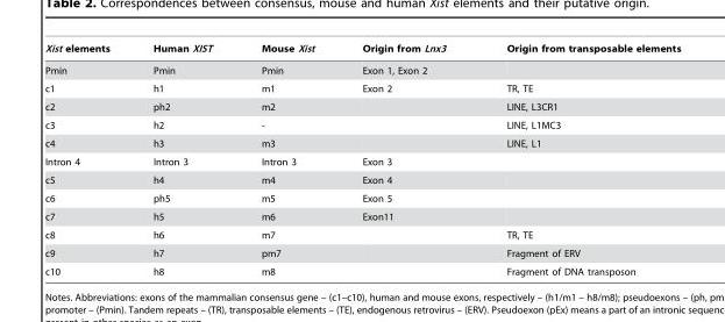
<table><thead><tr><td>Xist elements</td><td>Human XIST</td><td>Mouse Xist</td><td>Origin from Lnx3</td><td>Origin from transposable elements</td></tr></thead><tbody><tr><td>Pmin</td><td>Pmin</td><td>Pmin</td><td>Exon 1, Exon 2</td><td></td></tr><tr><td>c1</td><td>h1</td><td>m1</td><td>Exon 2</td><td>TR, TE</td></tr><tr><td>c2</td><td>ph2</td><td>m2</td><td></td><td>LINE, L3CR1</td></tr><tr><td>c3</td><td>h2</td><td>-</td><td></td><td>LINE, L1MC3</td></tr><tr><td>c4</td><td>h3</td><td>m3</td><td></td><td>LINE, L1</td></tr><tr><td>Intron 4</td><td>Intron 3</td><td>Intron 3</td><td>Exon 3</td><td></td></tr><tr><td>c5</td><td>h4</td><td>m4</td><td>Exon 4</td><td></td></tr><tr><td>c6</td><td>ph5</td><td>m5</td><td>Exon 5</td><td></td></tr><tr><td>c7</td><td>h5</td><td>m6</td><td>Exon11</td><td></td></tr><tr><td>c8</td><td>h6</td><td>m7</td><td></td><td>TR, TE</td></tr><tr><td>c9</td><td>h7</td><td>pm7</td><td></td><td>Fragment of ERV</td></tr><tr><td>c10</td><td>h8</td><td>m8</td><td></td><td>Fragment of DNA transposon</td></tr></tbody></table>